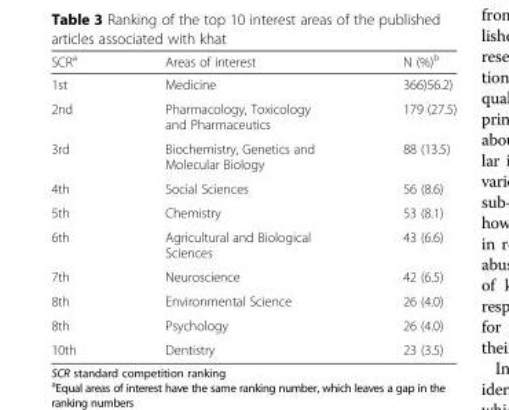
<table><thead><tr><td>SCR<sup>a</sup></td><td>Areas of interest</td><td>N (%)<sup>b</sup></td></tr></thead><tbody><tr><td>1st</td><td>Medicine</td><td>366)56.2)</td></tr><tr><td>2nd</td><td>Pharmacology, Toxicology and Pharmaceutics</td><td>179 (27.5)</td></tr><tr><td>3rd</td><td>Biochemistry, Genetics and Molecular Biology</td><td>88 (13.5)</td></tr><tr><td>4th</td><td>Social Sciences</td><td>56 (8.6)</td></tr><tr><td>5th</td><td>Chemistry</td><td>53 (8.1)</td></tr><tr><td>6th</td><td>Agricultural and Biological Sciences</td><td>43 (6.6)</td></tr><tr><td>7th</td><td>Neuroscience</td><td>42 (6.5)</td></tr><tr><td>8th</td><td>Environmental Science</td><td>26 (4.0)</td></tr><tr><td>8th</td><td>Psychology</td><td>26 (4.0)</td></tr><tr><td>10th</td><td>Dentistry</td><td>23 (3.5)</td></tr></tbody></table>